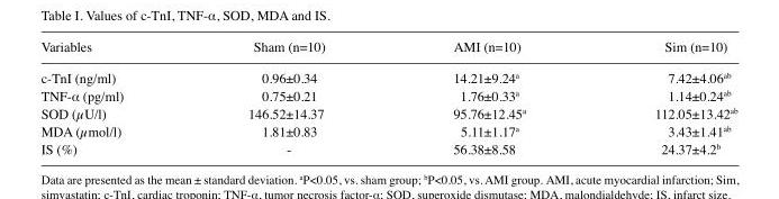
<table><thead><tr><td>Variables</td><td>Sham (n=10)</td><td>AMI (n=10)</td><td>Sim (n=10)</td></tr></thead><tbody><tr><td>c-TnI (ng/ml)</td><td>0.96±0.34</td><td>14.21±9.24<sup>a</sup></td><td>7.42±4.06<sup>ab</sup></td></tr><tr><td>TNF-α (pg/ml)</td><td>0.75±0.21</td><td>1.76±0.33<sup>a</sup></td><td>1.14±0.24<sup>ab</sup></td></tr><tr><td>SOD (µU/l)</td><td>146.52±14.37</td><td>95.76±12.45<sup>a</sup></td><td>112.05±13.42<sup>ab</sup></td></tr><tr><td>MDA (µmol/l)</td><td>1.81±0.83</td><td>5.11±1.17<sup>a</sup></td><td>3.43±1.41<sup>ab</sup></td></tr><tr><td>IS (%)</td><td>-</td><td>56.38±8.58</td><td>24.37±4.2<sup>b</sup></td></tr></tbody></table>